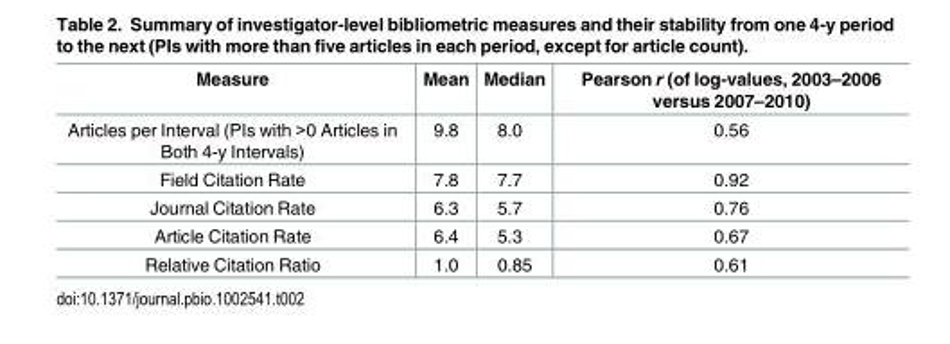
<table><thead><tr><td>Measure</td><td>Mean</td><td>Median</td><td>Pearson r (of log-values, 2003–2006 versus 2007–2010)</td></tr></thead><tbody><tr><td>Articles per Interval (PIs with &gt;0 Articles in Both 4-y Intervals)</td><td>9.8</td><td>8.0</td><td>0.56</td></tr><tr><td>Field Citation Rate</td><td>7.8</td><td>7.7</td><td>0.92</td></tr><tr><td>Journal Citation Rate</td><td>6.3</td><td>5.7</td><td>0.76</td></tr><tr><td>Article Citation Rate</td><td>6.4</td><td>5.3</td><td>0.67</td></tr><tr><td>Relative Citation Ratio</td><td>1.0</td><td>0.85</td><td>0.61</td></tr></tbody></table>